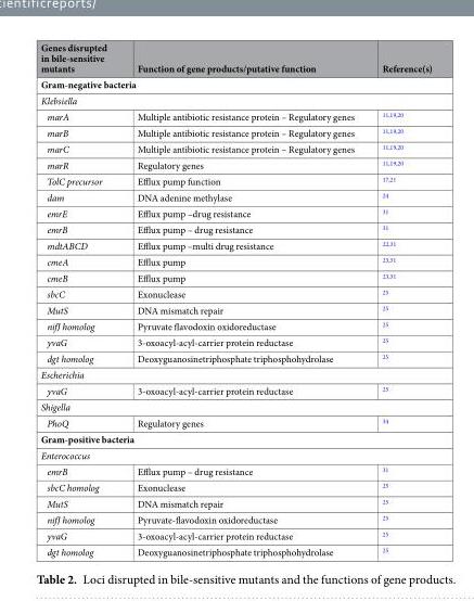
<table><thead><tr><td>Genes disrupted in bile-sensitive mutants</td><td>Function of gene products/putative function</td><td>Reference(s)</td></tr></thead><tbody><tr><td colspan="3">Gram-negative bacteria</td></tr><tr><td colspan="3">Klebsiella</td></tr><tr><td>marA</td><td>Multiple antibiotic resistance protein – Regulatory genes</td><td><sup>11,19,20</sup></td></tr><tr><td>marB</td><td>Multiple antibiotic resistance protein – Regulatory genes</td><td><sup>11,19,20</sup></td></tr><tr><td>marC</td><td>Multiple antibiotic resistance protein – Regulatory genes</td><td><sup>11,19,20</sup></td></tr><tr><td>marR</td><td>Regulatory genes</td><td><sup>11,19,20</sup></td></tr><tr><td>TolC precursor</td><td>Efflux pump function</td><td><sup>17,21</sup></td></tr><tr><td>dam</td><td>DNA adenine methylase</td><td><sup>24</sup></td></tr><tr><td>emrE</td><td>Efflux pump –drug resistance</td><td><sup>31</sup></td></tr><tr><td>emrB</td><td>Efflux pump – drug resistance</td><td><sup>31</sup></td></tr><tr><td>mdtABCD</td><td>Efflux pump –multi drug resistance</td><td><sup>22,31</sup></td></tr><tr><td>cmeA</td><td>Efflux pump</td><td><sup>23,31</sup></td></tr><tr><td>cmeB</td><td>Efflux pump</td><td><sup>23,31</sup></td></tr><tr><td>sbcC</td><td>Exonuclease</td><td><sup>25</sup></td></tr><tr><td>MutS</td><td>DNA mismatch repair</td><td><sup>25</sup></td></tr><tr><td>nifJ homolog</td><td>Pyruvate flavodoxin oxidoreductase</td><td><sup>25</sup></td></tr><tr><td>yvaG</td><td>3-oxoacyl-acyl-carrier protein reductase</td><td><sup>25</sup></td></tr><tr><td>dgt homolog</td><td>Deoxyguanosinetriphosphate triphosphohydrolase</td><td><sup>25</sup></td></tr><tr><td colspan="3">Escherichia</td></tr><tr><td>yvaG</td><td>3-oxoacyl-acyl-carrier protein reductase</td><td><sup>25</sup></td></tr><tr><td colspan="3">Shigella</td></tr><tr><td>PhoQ</td><td>Regulatory genes</td><td><sup>34</sup></td></tr><tr><td colspan="3">Gram-positive bacteria</td></tr><tr><td colspan="3">Enterococcus</td></tr><tr><td>emrB</td><td>Efflux pump – drug resistance</td><td><sup>31</sup></td></tr><tr><td>sbcC homolog</td><td>Exonuclease</td><td><sup>25</sup></td></tr><tr><td>MutS</td><td>DNA mismatch repair</td><td><sup>25</sup></td></tr><tr><td>nifJ homolog</td><td>Pyruvate-flavodoxin oxidoreductase</td><td><sup>25</sup></td></tr><tr><td>yvaG</td><td>3-oxoacyl-acyl-carrier protein reductase</td><td><sup>25</sup></td></tr><tr><td>dgt homolog</td><td>Deoxyguanosinetriphosphate triphosphohydrolase</td><td><sup>25</sup></td></tr></tbody></table>